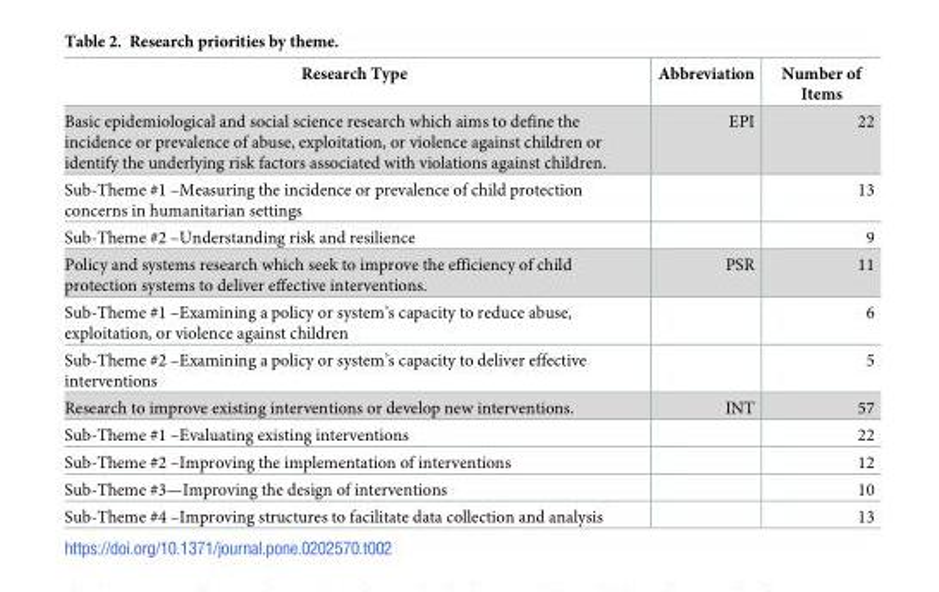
<table><thead><tr><td>Research Type</td><td>Abbreviation</td><td>Number of Items</td></tr></thead><tbody><tr><td>Basic epidemiological and social science research which aims to define the incidence or prevalence of abuse, exploitation, or violence against children or identify the underlying risk factors associated with violations against children.</td><td>EPI</td><td>22</td></tr><tr><td>Sub-Theme #1 –Measuring the incidence or prevalence of child protection concerns in humanitarian settings</td><td></td><td>13</td></tr><tr><td>Sub-Theme #2 –Understanding risk and resilience</td><td></td><td>9</td></tr><tr><td>Policy and systems research which seek to improve the efficiency of child protection systems to deliver effective interventions.</td><td>PSR</td><td>11</td></tr><tr><td>Sub-Theme #1 –Examining a policy or system’s capacity to reduce abuse, exploitation, or violence against children</td><td></td><td>6</td></tr><tr><td>Sub-Theme #2 –Examining a policy or system’s capacity to deliver effective interventions</td><td></td><td>5</td></tr><tr><td>Research to improve existing interventions or develop new interventions.</td><td>INT</td><td>57</td></tr><tr><td>Sub-Theme #1 –Evaluating existing interventions</td><td></td><td>22</td></tr><tr><td>Sub-Theme #2 –Improving the implementation of interventions</td><td></td><td>12</td></tr><tr><td>Sub-Theme #3—Improving the design of interventions</td><td></td><td>10</td></tr><tr><td>Sub-Theme #4 –Improving structures to facilitate data collection and analysis</td><td></td><td>13</td></tr></tbody></table>